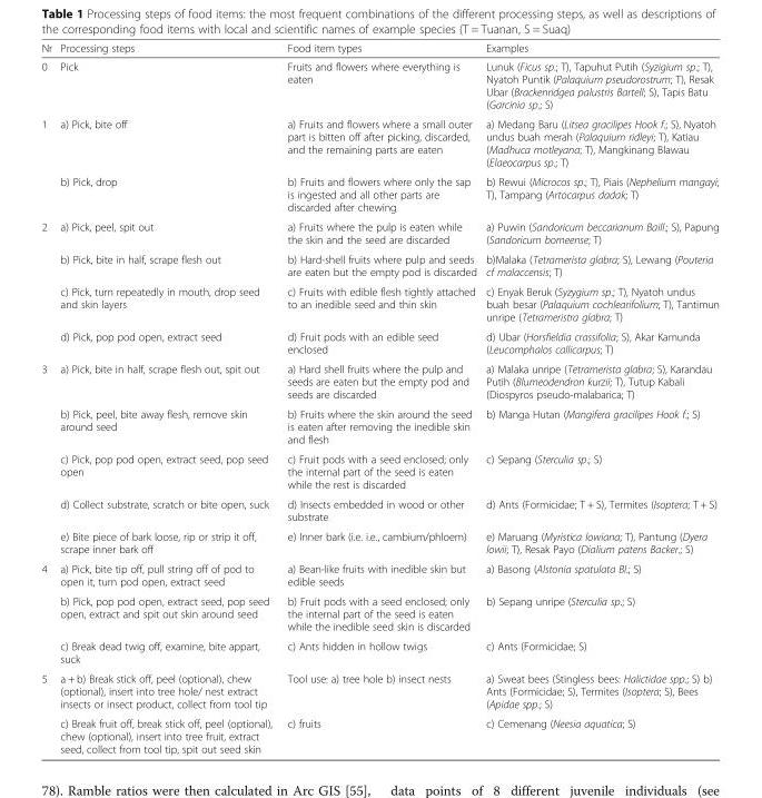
<table><thead><tr><td>Nr</td><td>Processing steps</td><td>Food item types</td><td>Examples</td></tr></thead><tbody><tr><td>0</td><td>Pick</td><td>Fruits and flowers where everything is eaten</td><td>Lunuk (Ficus sp.; T), Tapuhut Putih (Syzigium sp.; T), Nyatoh Puntik (Palaquium pseudorostrum; T), Resak Ubar (Brackenridgea palustris Bartell; S), Tapis Batu (Garcinia sp.; S)</td></tr><tr><td rowspan="2">1</td><td>a) Pick, bite off</td><td>a) Fruits and flowers where a small outer part is bitten off after picking, discarded, and the remaining parts are eaten</td><td>a) Medang Baru (Litsea gracilipes Hook f.; S), Nyatoh undus buah merah (Palaquium ridleyi; T), Katiau (Madhuca motleyana; T), Mangkinang Blawau (Elaeocarpus sp.; T)</td></tr><tr><td>b) Pick, drop</td><td>b) Fruits and flowers where only the sap is ingested and all other parts are discarded after chewing</td><td>b) Rewui (Microcos sp.; T), Piais (Nephelium mangayi; T), Tampang (Artocarpus dadak; T)</td></tr><tr><td rowspan="4">2</td><td>a) Pick, peel, spit out</td><td>a) Fruits where the pulp is eaten while the skin and the seed are discarded</td><td>a) Puwin (Sandoricum beccarianum Baill.; S), Papung (Sandoricum borneense; T)</td></tr><tr><td>b) Pick, bite in half, scrape flesh out</td><td>b) Hard-shell fruits where pulp and seeds are eaten but the empty pod is discarded</td><td>b)Malaka (Tetramerista glabra; S), Lewang (Pouteria cf malaccensis; T)</td></tr><tr><td>c) Pick, turn repeatedly in mouth, drop seed and skin layers</td><td>c) Fruits with edible flesh tightly attached to an inedible seed and thin skin</td><td>c) Enyak Beruk (Syzygium sp.; T), Nyatoh undus buah besar (Palaquium cochlearifolium; T), Tantimun unripe (Tetrameristra glabra; T)</td></tr><tr><td>d) Pick, pop pod open, extract seed</td><td>d) Fruit pods with an edible seed enclosed</td><td>d) Ubar (Horsfieldia crassifolia; S), Akar Kamunda (Leucomphalos callicarpus; T)</td></tr><tr><td rowspan="5">3</td><td>a) Pick, bite in half, scrape flesh out, spit out</td><td>a) Hard shell fruits where the pulp and seeds are eaten but the empty pod and seeds are discarded</td><td>a) Malaka unripe (Tetramerista glabra; S), Karandau Putih (Blumeodendron kurzii; T), Tutup Kabali (Diospyros pseudo-malabarica; T)</td></tr><tr><td>b) Pick, peel, bite away flesh, remove skin around seed</td><td>b) Fruits where the skin around the seed is eaten after removing the inedible skin and flesh</td><td>b) Manga Hutan (Mangifera gracilipes Hook f.; S)</td></tr><tr><td>c) Pick, pop pod open, extract seed, pop seed open</td><td>c) Fruit pods with a seed enclosed; only the internal part of the seed is eaten while the rest is discarded</td><td>c) Sepang (Sterculia sp.; S)</td></tr><tr><td>d) Collect substrate, scratch or bite open, suck</td><td>d) Insects embedded in wood or other substrate</td><td>d) Ants (Formicidae; T + S), Termites (Isoptera; T + S)</td></tr><tr><td>e) Bite piece of bark loose, rip or strip it off, scrape inner bark off</td><td>e) Inner bark (i.e. i.e., cambium/phloem)</td><td>e) Maruang (Myristica lowiana; T), Pantung (Dyera lowii; T), Resak Payo (Dialium patens Backer.; S)</td></tr><tr><td rowspan="3">4</td><td>a) Pick, bite tip off, pull string off of pod to open it, turn pod open, extract seed</td><td>a) Bean-like fruits with inedible skin but edible seeds</td><td>a) Basong (Alstonia spatulata BI.; S)</td></tr><tr><td>b) Pick, pop pod open, extract seed, pop seed open, extract and spit out skin around seed</td><td>b) Fruit pods with a seed enclosed; only the internal part of the seed is eaten while the inedible seed skin is discarded</td><td>b) Sepang unripe (Sterculia sp.; S)</td></tr><tr><td>c) Break dead twig off, examine, bite appart, suck</td><td>c) Ants hidden in hollow twigs</td><td>c) Ants (Formicidae; S)</td></tr><tr><td rowspan="2">5</td><td>a + b) Break stick off, peel (optional), chew (optional), insert into tree hole/ nest extract insects or insect product, collect from tool tip</td><td>Tool use: a) tree hole b) insect nests</td><td>a) Sweat bees (Stingless bees: Halictidae spp.; S) b) Ants (Formicidae; S), Termites (Isoptera; S), Bees (Apidae spp.; S)</td></tr><tr><td>c) Break fruit off, break stick off, peel (optional), chew (optional), insert into tree fruit, extract seed, collect from tool tip, spit out seed skin</td><td>c) fruits</td><td>c) Cemenang (Neesia aquatica; S)</td></tr></tbody></table>